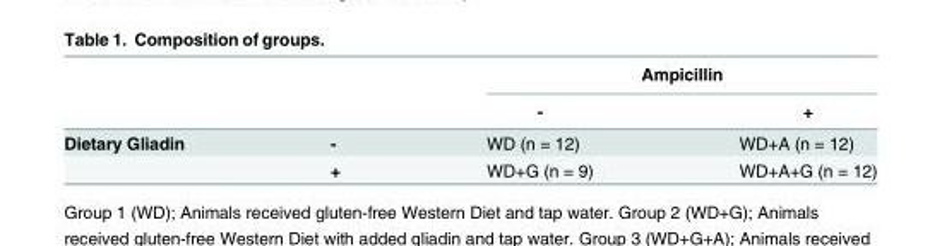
<table><thead><tr><td rowspan="2"></td><td rowspan="2"></td><td colspan="2">Ampicillin</td></tr><tr><td>-</td><td>+</td></tr></thead><tbody><tr><td rowspan="2">Dietary Gliadin</td><td>-</td><td>WD (n = 12)</td><td>WD+A (n = 12)</td></tr><tr><td>+</td><td>WD+G (n = 9)</td><td>WD+A+G (n = 12)</td></tr></tbody></table>